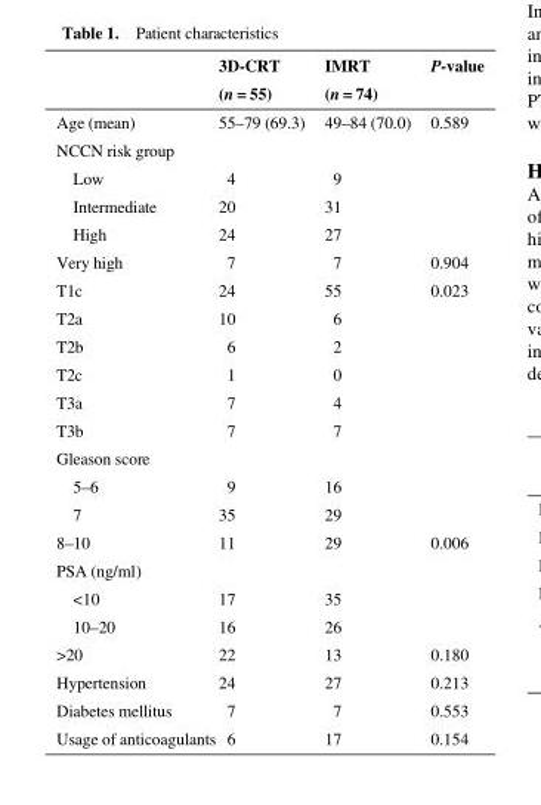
<table><thead><tr><td rowspan="2"></td><td rowspan="2">3D-CRT (n = 55)</td><td rowspan="2">IMRT (n = 74)</td><td rowspan="2">P-value</td></tr><tr></tr></thead><tbody><tr><td>Age (mean)</td><td>55–79 (69.3)</td><td>49–84 (70.0)</td><td>0.589</td></tr><tr><td colspan="4">NCCN risk group</td></tr><tr><td>Low</td><td>4</td><td>9</td><td></td></tr><tr><td>Intermediate</td><td>20</td><td>31</td><td></td></tr><tr><td>High</td><td>24</td><td>27</td><td></td></tr><tr><td>Very high</td><td>7</td><td>7</td><td>0.904</td></tr><tr><td>T1c</td><td>24</td><td>55</td><td>0.023</td></tr><tr><td>T2a</td><td>10</td><td>6</td><td></td></tr><tr><td>T2b</td><td>6</td><td>2</td><td></td></tr><tr><td>T2c</td><td>1</td><td>0</td><td></td></tr><tr><td>T3a</td><td>7</td><td>4</td><td></td></tr><tr><td>T3b</td><td>7</td><td>7</td><td></td></tr><tr><td colspan="4">Gleason score</td></tr><tr><td>5–6</td><td>9</td><td>16</td><td></td></tr><tr><td>7</td><td>35</td><td>29</td><td></td></tr><tr><td>8–10</td><td>11</td><td>29</td><td>0.006</td></tr><tr><td colspan="4">PSA (ng/ml)</td></tr><tr><td>&lt;10</td><td>17</td><td>35</td><td></td></tr><tr><td>10–20</td><td>16</td><td>26</td><td></td></tr><tr><td>&gt;20</td><td>22</td><td>13</td><td>0.180</td></tr><tr><td>Hypertension</td><td>24</td><td>27</td><td>0.213</td></tr><tr><td>Diabetes mellitus</td><td>7</td><td>7</td><td>0.553</td></tr><tr><td>Usage of anticoagulants</td><td>6</td><td>17</td><td>0.154</td></tr></tbody></table>